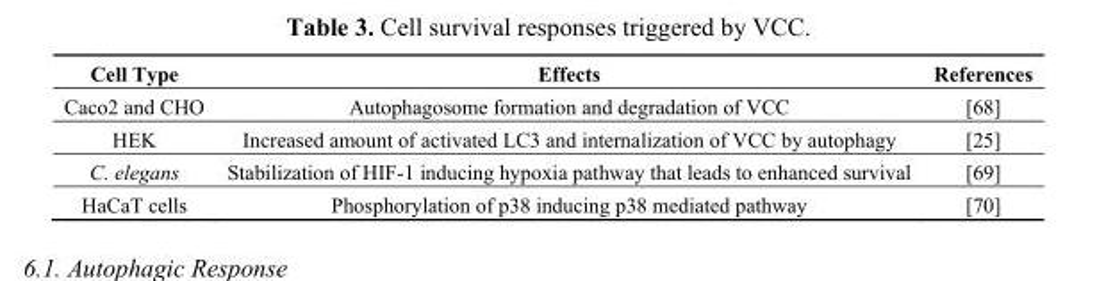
<table><thead><tr><td>Cell Type</td><td>Effects</td><td>References</td></tr></thead><tbody><tr><td>Caco2 and CHO</td><td>Autophagosome formation and degradation of VCC</td><td>[68]</td></tr><tr><td>HEK</td><td>Increased amount of activated LC3 and internalization of VCC by autophagy</td><td>[25]</td></tr><tr><td>C. elegans</td><td>Stabilization of HIF-1 inducing hypoxia pathway that leads to enhanced survival</td><td>[69]</td></tr><tr><td>HaCaT cells</td><td>Phosphorylation of p38 inducing p38 mediated pathway</td><td>[70]</td></tr></tbody></table>